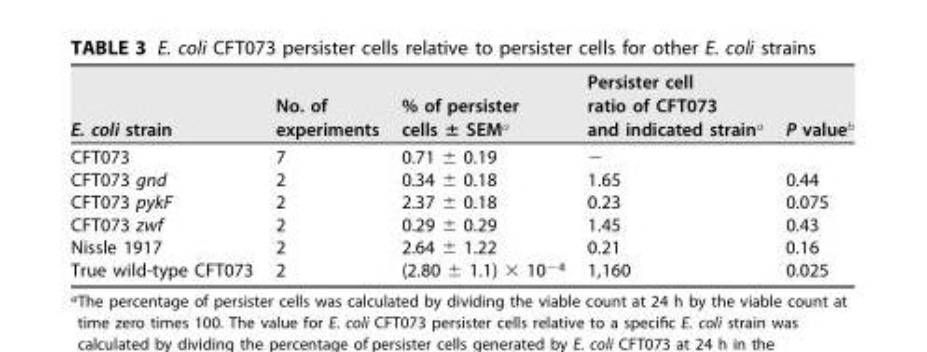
<table><thead><tr><td>E. coli strain</td><td>No. of experiments</td><td>% of persister cells ± SEM<sup>a</sup></td><td>Persister cell ratio of CFT073 and indicated strain<sup>a</sup></td><td>P value<sup>b</sup></td></tr></thead><tbody><tr><td>CFT073</td><td>7</td><td>0.71 ± 0.19</td><td>−</td><td></td></tr><tr><td>CFT073 gnd</td><td>2</td><td>0.34 ± 0.18</td><td>1.65</td><td>0.44</td></tr><tr><td>CFT073 pykF</td><td>2</td><td>2.37 ± 0.18</td><td>0.23</td><td>0.075</td></tr><tr><td>CFT073 zwf</td><td>2</td><td>0.29 ± 0.29</td><td>1.45</td><td>0.43</td></tr><tr><td>Nissle 1917</td><td>2</td><td>2.64 ± 1.22</td><td>0.21</td><td>0.16</td></tr><tr><td>True wild-type CFT073</td><td>2</td><td>(2.80 ± 1.1) × 10<sup>−4</sup></td><td>1,160</td><td>0.025</td></tr></tbody></table>